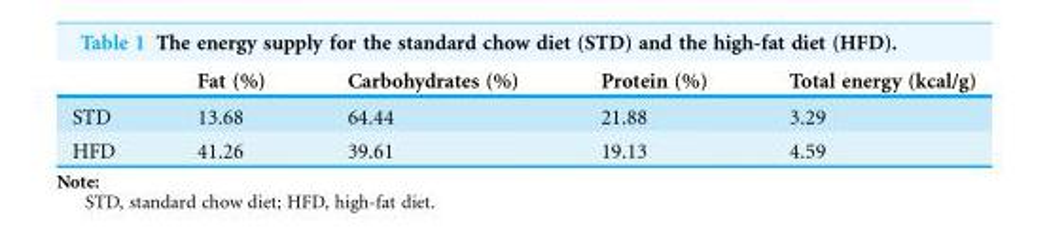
<table><thead><tr><td></td><td>Fat (%)</td><td>Carbohydrates (%)</td><td>Protein (%)</td><td>Total energy (kcal/g)</td></tr></thead><tbody><tr><td>STD</td><td>13.68</td><td>64.44</td><td>21.88</td><td>3.29</td></tr><tr><td>HFD</td><td>41.26</td><td>39.61</td><td>19.13</td><td>4.59</td></tr></tbody></table>